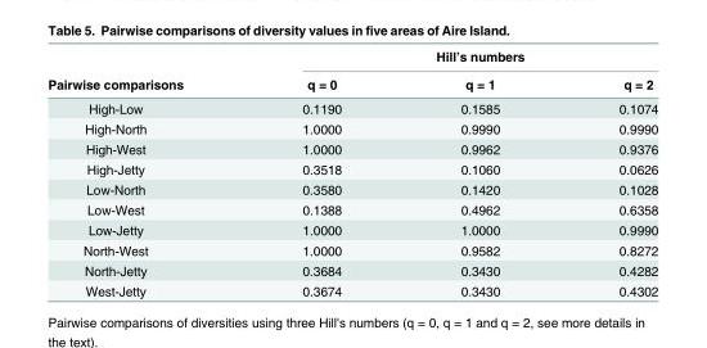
<table><thead><tr><td rowspan="2">Pairwise comparisons</td><td colspan="3">Hill’s numbers</td></tr><tr><td>q = 0</td><td>q = 1</td><td>q = 2</td></tr></thead><tbody><tr><td>High-Low</td><td>0.1190</td><td>0.1585</td><td>0.1074</td></tr><tr><td>High-North</td><td>1.0000</td><td>0.9990</td><td>0.9990</td></tr><tr><td>High-West</td><td>1.0000</td><td>0.9962</td><td>0.9376</td></tr><tr><td>High-Jetty</td><td>0.3518</td><td>0.1060</td><td>0.0626</td></tr><tr><td>Low-North</td><td>0.3580</td><td>0.1420</td><td>0.1028</td></tr><tr><td>Low-West</td><td>0.1388</td><td>0.4962</td><td>0.6358</td></tr><tr><td>Low-Jetty</td><td>1.0000</td><td>1.0000</td><td>0.9990</td></tr><tr><td>North-West</td><td>1.0000</td><td>0.9582</td><td>0.8272</td></tr><tr><td>North-Jetty</td><td>0.3684</td><td>0.3430</td><td>0.4282</td></tr><tr><td>West-Jetty</td><td>0.3674</td><td>0.3430</td><td>0.4302</td></tr></tbody></table>